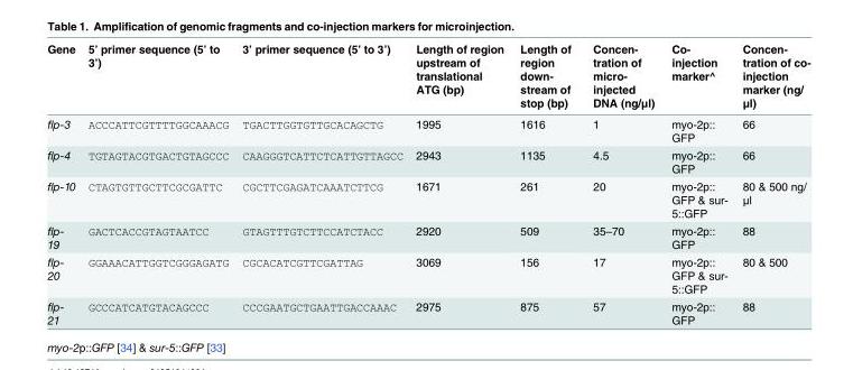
<table><thead><tr><td>Gene</td><td>5’ primer sequence (5’ to 3’)</td><td>3’ primer sequence (5’ to 3’)</td><td>Length of region upstream of translational ATG (bp)</td><td>Length of region down- stream of stop (bp)</td><td>Concen- tration of micro- injected DNA (ng/μl)</td><td>Co- injection marker^</td><td>Concen- tration of co- injection marker (ng/ μl)</td></tr></thead><tbody><tr><td>flp-3</td><td>ACCCATTCGTTTTGGCAAACG</td><td>TGACTTGGTGTTGCACAGCTG</td><td>1995</td><td>1616</td><td>1</td><td>myo-2p:: GFP</td><td>66</td></tr><tr><td>flp-4</td><td>TGTAGTACGTGACTGTAGCCC</td><td>CAAGGGTCATTCTCATTGTTAGCC</td><td>2943</td><td>1135</td><td>4.5</td><td>myo-2p:: GFP</td><td>66</td></tr><tr><td>flp-10</td><td>CTAGTGTTGCTTCGCGATTC</td><td>CGCTTCGAGATCAAATCTTCG</td><td>1671</td><td>261</td><td>20</td><td>myo-2p:: GFP &amp; sur- 5::GFP</td><td>80 &amp; 500 ng/ μl</td></tr><tr><td>flp- 19</td><td>GACTCACCGTAGTAATCC</td><td>GTAGTTTGTCTTCCATCTACC</td><td>2920</td><td>509</td><td>35–70</td><td>myo-2p:: GFP</td><td>88</td></tr><tr><td>flp- 20</td><td>GGAAACATTGGTCGGGAGATG</td><td>CGCACATCGTTCGATTAG</td><td>3069</td><td>156</td><td>17</td><td>myo-2p:: GFP &amp; sur- 5::GFP</td><td>80 &amp; 500</td></tr><tr><td>flp- 21</td><td>GCCCATCATGTACAGCCC</td><td>CCCGAATGCTGAATTGACCAAAC</td><td>2975</td><td>875</td><td>57</td><td>myo-2p:: GFP</td><td>88</td></tr></tbody></table>